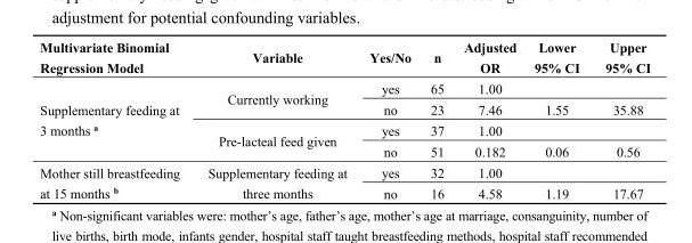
<table><thead><tr><td>Multivariate Binomial Regression Model</td><td>Variable</td><td>Yes/No</td><td>n</td><td>Adjusted OR</td><td>Lower 95% CI</td><td>Upper 95% CI</td></tr></thead><tbody><tr><td rowspan="4">Supplementary feeding at 3 months <sup>a</sup></td><td rowspan="2">Currently working</td><td>yes</td><td>65</td><td>1.00</td><td></td><td></td></tr><tr><td>no</td><td>23</td><td>7.46</td><td>1.55</td><td>35.88</td></tr><tr><td rowspan="2">Pre-lacteal feed given</td><td>yes</td><td>37</td><td>1.00</td><td></td><td></td></tr><tr><td>no</td><td>51</td><td>0.182</td><td>0.06</td><td>0.56</td></tr><tr><td rowspan="2">Mother still breastfeeding at 15 months <sup>b</sup></td><td rowspan="2">Supplementary feeding at three months</td><td>yes</td><td>32</td><td>1.00</td><td></td><td></td></tr><tr><td>no</td><td>16</td><td>4.58</td><td>1.19</td><td>17.67</td></tr></tbody></table>